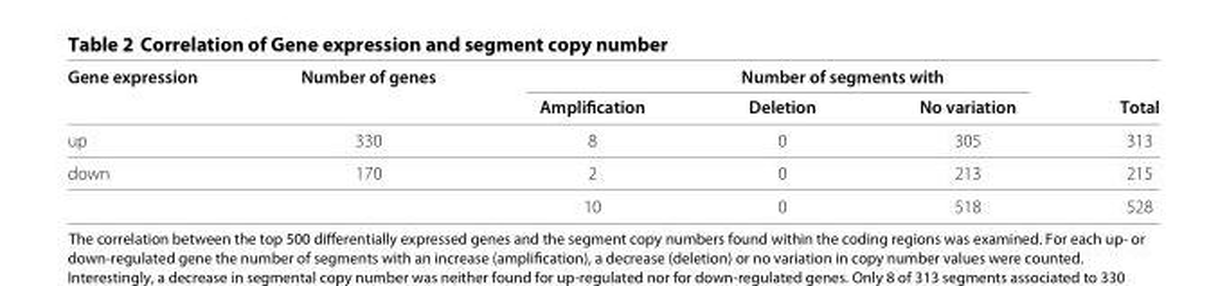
<table><thead><tr><td rowspan="2">Gene expression</td><td rowspan="2">Number of genes</td><td colspan="3">Number of segments with</td><td rowspan="2">Total</td></tr><tr><td>Amplification</td><td>Deletion</td><td>No variation</td></tr></thead><tbody><tr><td>up</td><td>330</td><td>8</td><td>0</td><td>305</td><td>313</td></tr><tr><td rowspan="2">down</td><td>170</td><td>2</td><td>0</td><td>213</td><td>215</td></tr><tr><td></td><td>10</td><td>0</td><td>518</td><td>528</td></tr></tbody></table>